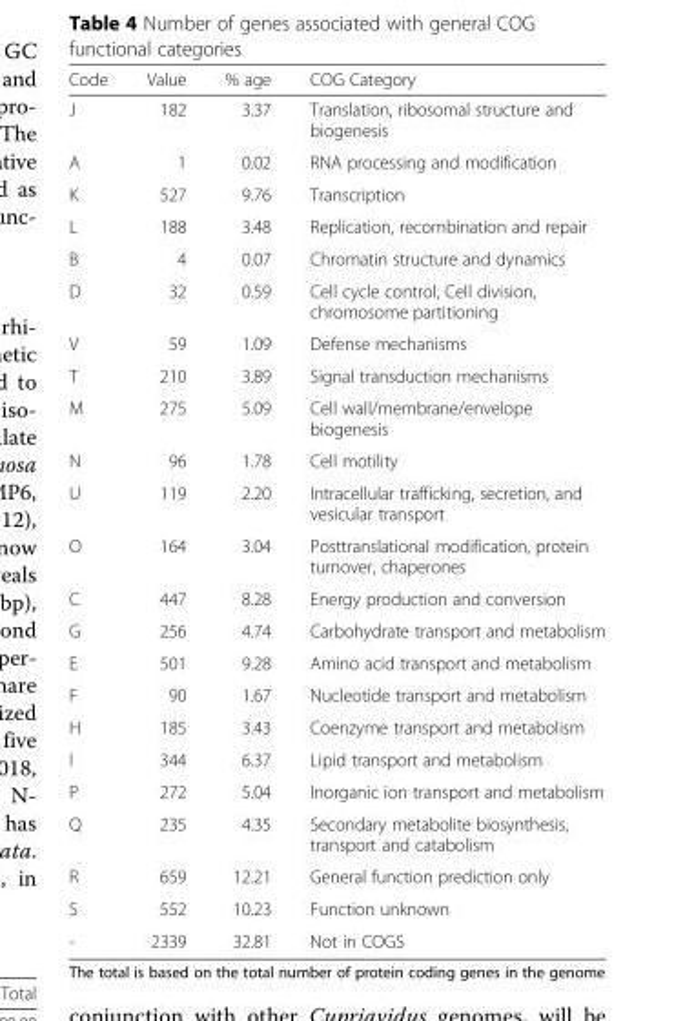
<table><thead><tr><td>Code</td><td>Value</td><td>% age</td><td>COG Category</td></tr></thead><tbody><tr><td>J</td><td>182</td><td>3.37</td><td>Translation, ribosomal structure and biogenesis</td></tr><tr><td>A</td><td>1</td><td>0.02</td><td>RNA processing and modification</td></tr><tr><td>K</td><td>527</td><td>9.76</td><td>Transcription</td></tr><tr><td>L</td><td>188</td><td>3.48</td><td>Replication, recombination and repair</td></tr><tr><td>B</td><td>4</td><td>0.07</td><td>Chromatin structure and dynamics</td></tr><tr><td>D</td><td>32</td><td>0.59</td><td>Cell cycle control, Cell division, chromosome partitioning</td></tr><tr><td>V</td><td>59</td><td>1.09</td><td>Defense mechanisms</td></tr><tr><td>T</td><td>210</td><td>3.89</td><td>Signal transduction mechanisms</td></tr><tr><td>M</td><td>275</td><td>5.09</td><td>Cell wall/membrane/envelope biogenesis</td></tr><tr><td>N</td><td>96</td><td>1.78</td><td>Cell motility</td></tr><tr><td>U</td><td>119</td><td>2.20</td><td>Intracellular trafficking, secretion, and vesicular transport</td></tr><tr><td>O</td><td>164</td><td>3.04</td><td>Posttranslational modification, protein turnover, chaperones</td></tr><tr><td>C</td><td>447</td><td>8.28</td><td>Energy production and conversion</td></tr><tr><td>G</td><td>256</td><td>4.74</td><td>Carbohydrate transport and metabolism</td></tr><tr><td>E</td><td>501</td><td>9.28</td><td>Amino acid transport and metabolism</td></tr><tr><td>F</td><td>90</td><td>1.67</td><td>Nucleotide transport and metabolism</td></tr><tr><td>H</td><td>185</td><td>3.43</td><td>Coenzyme transport and metabolism</td></tr><tr><td>I</td><td>344</td><td>6.37</td><td>Lipid transport and metabolism</td></tr><tr><td>P</td><td>272</td><td>5.04</td><td>Inorganic ion transport and metabolism</td></tr><tr><td>Q</td><td>235</td><td>4.35</td><td>Secondary metabolite biosynthesis, transport and catabolism</td></tr><tr><td>R</td><td>659</td><td>12.21</td><td>General function prediction only</td></tr><tr><td>S</td><td>552</td><td>10.23</td><td>Function unknown</td></tr><tr><td>-</td><td>2339</td><td>32.81</td><td>Not in COGS</td></tr></tbody></table>